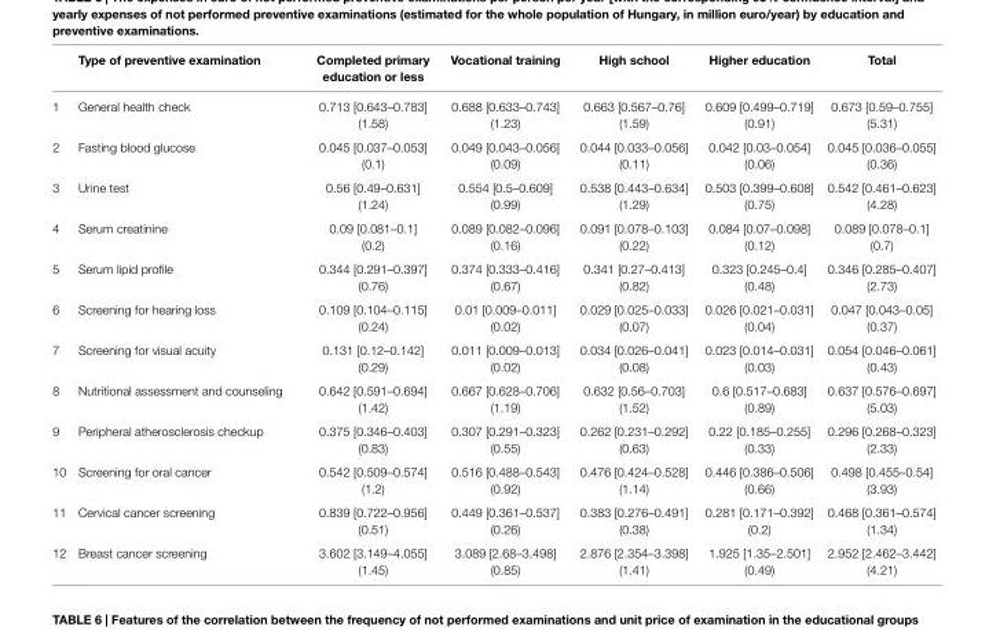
<table><thead><tr><td></td><td>Type of preventive examination</td><td>completed primary education or less</td><td>Vocational training</td><td>high school</td><td>higher education</td><td>Total</td></tr></thead><tbody><tr><td>1</td><td>General health check</td><td>0.713 [0.643–0.783] (1.58)</td><td>0.688 [0.633–0.743] (1.23)</td><td>0.663 [0.567–0.76] (1.59)</td><td>0.609 [0.499–0.719] (0.91)</td><td>0.673 [0.59–0.755] (5.31)</td></tr><tr><td>2</td><td>Fasting blood glucose</td><td>0.045 [0.037–0.053] (0.1)</td><td>0.049 [0.043–0.056] (0.09)</td><td>0.044 [0.033–0.056] (0.11)</td><td>0.042 [0.03–0.054] (0.06)</td><td>0.045 [0.036–0.055] (0.36)</td></tr><tr><td>3</td><td>Urine test</td><td>0.56 [0.49–0.631] (1.24)</td><td>0.554 [0.5–0.609] (0.99)</td><td>0.538 [0.443–0.634] (1.29)</td><td>0.503 [0.399–0.608] (0.75)</td><td>0.542 [0.461–0.623] (4.28)</td></tr><tr><td>4</td><td>Serum creatinine</td><td>0.09 [0.081–0.1] (0.2)</td><td>0.089 [0.082–0.096] (0.16)</td><td>0.091 [0.078–0.103] (0.22)</td><td>0.084 [0.07–0.098] (0.12)</td><td>0.089 [0.078–0.1] (0.7)</td></tr><tr><td>5</td><td>Serum lipid profile</td><td>0.344 [0.291–0.397] (0.76)</td><td>0.374 [0.333–0.416] (0.67)</td><td>0.341 [0.27–0.413] (0.82)</td><td>0.323 [0.245–0.4] (0.48)</td><td>0.346 [0.285–0.407] (2.73)</td></tr><tr><td>6</td><td>Screening for hearing loss</td><td>0.109 [0.104–0.115] (0.24)</td><td>0.01 [0.009–0.011] (0.02)</td><td>0.029 [0.025–0.033] (0.07)</td><td>0.026 [0.021–0.031] (0.04)</td><td>0.047 [0.043–0.05] (0.37)</td></tr><tr><td>7</td><td>Screening for visual acuity</td><td>0.131 [0.12–0.142] (0.29)</td><td>0.011 [0.009–0.013] (0.02)</td><td>0.034 [0.026–0.041] (0.08)</td><td>0.023 [0.014–0.031] (0.03)</td><td>0.054 [0.046–0.061] (0.43)</td></tr><tr><td>8</td><td>Nutritional assessment and counseling</td><td>0.642 [0.591–0.694] (1.42)</td><td>0.667 [0.628–0.706] (1.19)</td><td>0.632 [0.56–0.703] (1.52)</td><td>0.6 [0.517–0.683] (0.89)</td><td>0.637 [0.576–0.697] (5.03)</td></tr><tr><td>9</td><td>Peripheral atherosclerosis checkup</td><td>0.375 [0.346–0.403] (0.83)</td><td>0.307 [0.291–0.323] (0.55)</td><td>0.262 [0.231–0.292] (0.63)</td><td>0.22 [0.185–0.255] (0.33)</td><td>0.296 [0.268–0.323] (2.33)</td></tr><tr><td>10</td><td>Screening for oral cancer</td><td>0.542 [0.509–0.574] (1.2)</td><td>0.516 [0.488–0.543] (0.92)</td><td>0.476 [0.424–0.528] (1.14)</td><td>0.446 [0.386–0.506] (0.66)</td><td>0.498 [0.455–0.54] (3.93)</td></tr><tr><td>11</td><td>Cervical cancer screening</td><td>0.839 [0.722–0.956] (0.51)</td><td>0.449 [0.361–0.537] (0.26)</td><td>0.383 [0.276–0.491] (0.38)</td><td>0.281 [0.171–0.392] (0.2)</td><td>0.468 [0.361–0.574] (1.34)</td></tr><tr><td>12</td><td>Breast cancer screening</td><td>3.602 [3.149–4.055] (1.45)</td><td>3.089 [2.68–3.498] (0.85)</td><td>2.876 [2.354–3.398] (1.41)</td><td>1.925 [1.35–2.501] (0.49)</td><td>2.952 [2.462–3.442] (4.21)</td></tr></tbody></table>